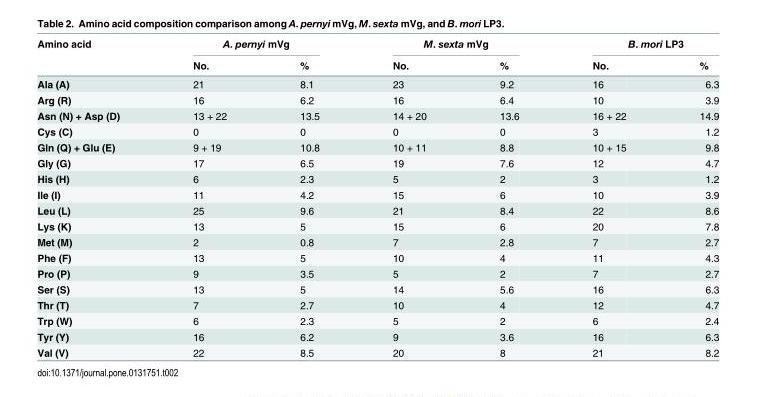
<table><thead><tr><td rowspan="2">Amino acid</td><td colspan="2">A. pernyi mVg</td><td colspan="2">M. sexta mVg</td><td colspan="2">B. mori LP3</td></tr><tr><td>No.</td><td>%</td><td>No.</td><td>%</td><td>No.</td><td>%</td></tr></thead><tbody><tr><td>Ala (A)</td><td>21</td><td>8.1</td><td>23</td><td>9.2</td><td>16</td><td>6.3</td></tr><tr><td>Arg (R)</td><td>16</td><td>6.2</td><td>16</td><td>6.4</td><td>10</td><td>3.9</td></tr><tr><td>Asn (N) + Asp (D)</td><td>13 + 22</td><td>13.5</td><td>14 + 20</td><td>13.6</td><td>16 + 22</td><td>14.9</td></tr><tr><td>Cys (C)</td><td>0</td><td>0</td><td>0</td><td>0</td><td>3</td><td>1.2</td></tr><tr><td>Gln (Q) + Glu (E)</td><td>9 + 19</td><td>10.8</td><td>10 + 11</td><td>8.8</td><td>10 + 15</td><td>9.8</td></tr><tr><td>Gly (G)</td><td>17</td><td>6.5</td><td>19</td><td>7.6</td><td>12</td><td>4.7</td></tr><tr><td>His (H)</td><td>6</td><td>2.3</td><td>5</td><td>2</td><td>3</td><td>1.2</td></tr><tr><td>Ile (I)</td><td>11</td><td>4.2</td><td>15</td><td>6</td><td>10</td><td>3.9</td></tr><tr><td>Leu (L)</td><td>25</td><td>9.6</td><td>21</td><td>8.4</td><td>22</td><td>8.6</td></tr><tr><td>Lys (K)</td><td>13</td><td>5</td><td>15</td><td>6</td><td>20</td><td>7.8</td></tr><tr><td>Met (M)</td><td>2</td><td>0.8</td><td>7</td><td>2.8</td><td>7</td><td>2.7</td></tr><tr><td>Phe (F)</td><td>13</td><td>5</td><td>10</td><td>4</td><td>11</td><td>4.3</td></tr><tr><td>Pro (P)</td><td>9</td><td>3.5</td><td>5</td><td>2</td><td>7</td><td>2.7</td></tr><tr><td>Ser (S)</td><td>13</td><td>5</td><td>14</td><td>5.6</td><td>16</td><td>6.3</td></tr><tr><td>Thr (T)</td><td>7</td><td>2.7</td><td>10</td><td>4</td><td>12</td><td>4.7</td></tr><tr><td>Trp (W)</td><td>6</td><td>2.3</td><td>5</td><td>2</td><td>6</td><td>2.4</td></tr><tr><td>Tyr (Y)</td><td>16</td><td>6.2</td><td>9</td><td>3.6</td><td>16</td><td>6.3</td></tr><tr><td>Val (V)</td><td>22</td><td>8.5</td><td>20</td><td>8</td><td>21</td><td>8.2</td></tr></tbody></table>